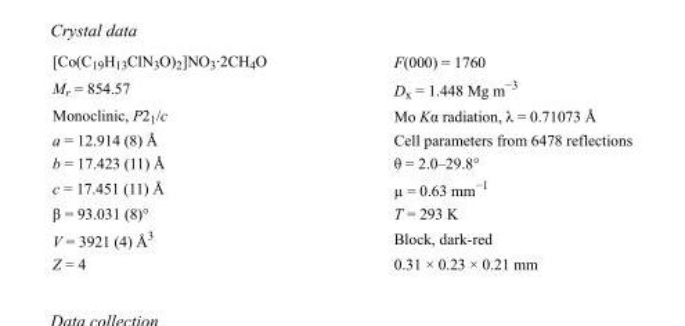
<table><tbody><tr><td>[Co(C<sub>19</sub>H<sub>13</sub>ClN<sub>3</sub>O)<sub>2</sub>]NO<sub>3</sub>·2CH<sub>4</sub>O</td><td>F(000) = 1760</td></tr><tr><td>M<sub>r</sub> = 854.57</td><td>D<sub>x</sub> = 1.448 Mg m<sup>−3</sup></td></tr><tr><td>Monoclinic, P2<sub>1</sub>/c</td><td>Mo Kα radiation, λ = 0.71073 Å</td></tr><tr><td>a = 12.914 (8) Å</td><td>Cell parameters from 6478 reflections</td></tr><tr><td>b = 17.423 (11) Å</td><td>θ = 2.0–29.8°</td></tr><tr><td>c = 17.451 (11) Å</td><td>µ = 0.63 mm<sup>−1</sup></td></tr><tr><td>β = 93.031 (8)°</td><td>T = 293 K</td></tr><tr><td>V = 3921 (4) Å<sup>3</sup></td><td>Block, dark-red</td></tr><tr><td>Z = 4</td><td>0.31 × 0.23 × 0.21 mm</td></tr></tbody></table>